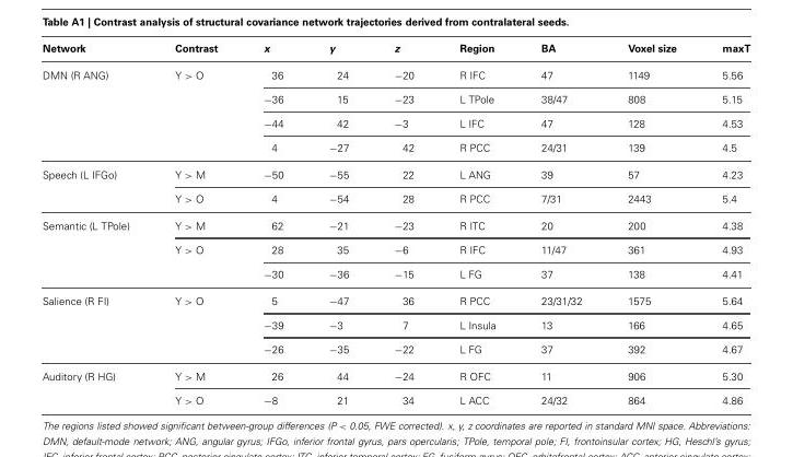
<table><thead><tr><td>Network</td><td>Contrast</td><td>x</td><td>y</td><td>z</td><td>Region</td><td>BA</td><td>Voxel size</td><td>maxT</td></tr></thead><tbody><tr><td rowspan="4">DMN (R ANG)</td><td>Y &gt; O</td><td>36</td><td>24</td><td>−20</td><td>R IFC</td><td>47</td><td>1149</td><td>5.56</td></tr><tr><td></td><td>−36</td><td>15</td><td>−23</td><td>L TPole</td><td>38/47</td><td>808</td><td>5.15</td></tr><tr><td></td><td>−44</td><td>42</td><td>−3</td><td>L IFC</td><td>47</td><td>128</td><td>4.53</td></tr><tr><td></td><td>4</td><td>−27</td><td>42</td><td>R PCC</td><td>24/31</td><td>139</td><td>4.5</td></tr><tr><td rowspan="2">Speech (L IFGo)</td><td>Y &gt; M</td><td>−50</td><td>−55</td><td>22</td><td>L ANG</td><td>39</td><td>57</td><td>4.23</td></tr><tr><td>Y &gt; O</td><td>4</td><td>−54</td><td>28</td><td>R PCC</td><td>7/31</td><td>2443</td><td>5.4</td></tr><tr><td rowspan="3">Semantic (L TPole)</td><td>Y &gt; M</td><td>62</td><td>−21</td><td>−23</td><td>R ITC</td><td>20</td><td>200</td><td>4.38</td></tr><tr><td>Y &gt; O</td><td>28</td><td>35</td><td>−6</td><td>R IFC</td><td>11/47</td><td>361</td><td>4.93</td></tr><tr><td></td><td>−30</td><td>−36</td><td>−15</td><td>L FG</td><td>37</td><td>138</td><td>4.41</td></tr><tr><td rowspan="3">Salience (R FI)</td><td>Y &gt; O</td><td>5</td><td>−47</td><td>36</td><td>R PCC</td><td>23/31/32</td><td>1575</td><td>5.64</td></tr><tr><td></td><td>−39</td><td>−3</td><td>7</td><td>L Insula</td><td>13</td><td>166</td><td>4.65</td></tr><tr><td></td><td>−26</td><td>−35</td><td>−22</td><td>L FG</td><td>37</td><td>392</td><td>4.67</td></tr><tr><td rowspan="2">Auditory (R HG)</td><td>Y &gt; M</td><td>26</td><td>44</td><td>−24</td><td>R OFC</td><td>11</td><td>906</td><td>5.30</td></tr><tr><td>Y &gt; O</td><td>−8</td><td>21</td><td>34</td><td>L ACC</td><td>24/32</td><td>864</td><td>4.86</td></tr></tbody></table>